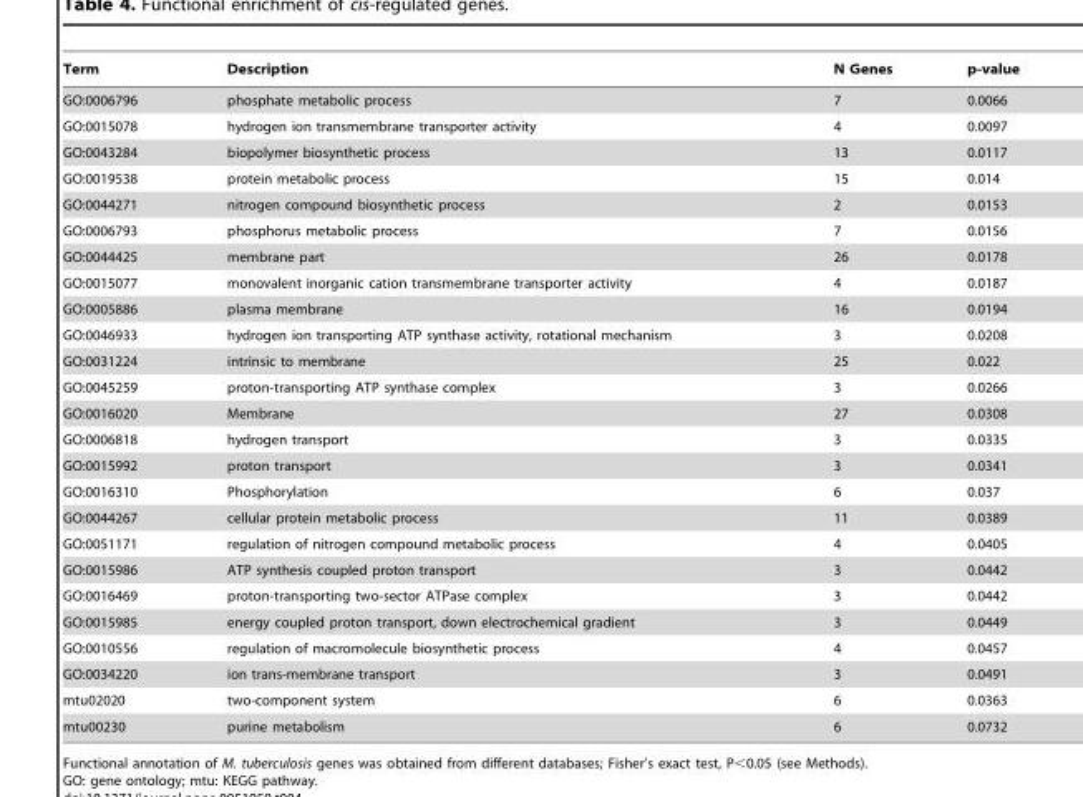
<table><thead><tr><td>Term</td><td>Description</td><td>N Genes</td><td>p-value</td></tr></thead><tbody><tr><td>GO:0006796</td><td>phosphate metabolic process</td><td>7</td><td>0.0066</td></tr><tr><td>GO:0015078</td><td>hydrogen ion transmembrane transporter activity</td><td>4</td><td>0.0097</td></tr><tr><td>GO:0043284</td><td>biopolymer biosynthetic process</td><td>13</td><td>0.0117</td></tr><tr><td>GO:0019538</td><td>protein metabolic process</td><td>15</td><td>0.014</td></tr><tr><td>GO:0044271</td><td>nitrogen compound biosynthetic process</td><td>2</td><td>0.0153</td></tr><tr><td>GO:0006793</td><td>phosphorus metabolic process</td><td>7</td><td>0.0156</td></tr><tr><td>GO:0044425</td><td>membrane part</td><td>26</td><td>0.0178</td></tr><tr><td>GO:0015077</td><td>monovalent inorganic cation transmembrane transporter activity</td><td>4</td><td>0.0187</td></tr><tr><td>GO:0005886</td><td>plasma membrane</td><td>16</td><td>0.0194</td></tr><tr><td>GO:0046933</td><td>hydrogen ion transporting ATP synthase activity, rotational mechanism</td><td>3</td><td>0.0208</td></tr><tr><td>GO:0031224</td><td>intrinsic to membrane</td><td>25</td><td>0.022</td></tr><tr><td>GO:0045259</td><td>proton-transporting ATP synthase complex</td><td>3</td><td>0.0266</td></tr><tr><td>GO:0016020</td><td>Membrane</td><td>27</td><td>0.0308</td></tr><tr><td>GO:0006818</td><td>hydrogen transport</td><td>3</td><td>0.0335</td></tr><tr><td>GO:0015992</td><td>proton transport</td><td>3</td><td>0.0341</td></tr><tr><td>GO:0016310</td><td>Phosphorylation</td><td>6</td><td>0.037</td></tr><tr><td>GO:0044267</td><td>cellular protein metabolic process</td><td>11</td><td>0.0389</td></tr><tr><td>GO:0051171</td><td>regulation of nitrogen compound metabolic process</td><td>4</td><td>0.0405</td></tr><tr><td>GO:0015986</td><td>ATP synthesis coupled proton transport</td><td>3</td><td>0.0442</td></tr><tr><td>GO:0016469</td><td>proton-transporting two-sector ATPase complex</td><td>3</td><td>0.0442</td></tr><tr><td>GO:0015985</td><td>energy coupled proton transport, down electrochemical gradient</td><td>3</td><td>0.0449</td></tr><tr><td>GO:0010556</td><td>regulation of macromolecule biosynthetic process</td><td>4</td><td>0.0457</td></tr><tr><td>GO:0034220</td><td>ion trans-membrane transport</td><td>3</td><td>0.0491</td></tr><tr><td>mtu02020</td><td>two-component system</td><td>6</td><td>0.0363</td></tr><tr><td>mtu00230</td><td>purine metabolism</td><td>6</td><td>0.0732</td></tr></tbody></table>